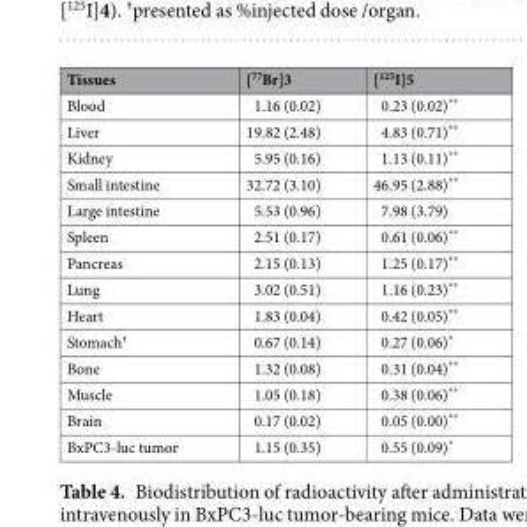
<table><thead><tr><td>Tissues</td><td>[<sup>77</sup>Br]3</td><td>[<sup>125</sup>I]5</td></tr></thead><tbody><tr><td>Blood</td><td>1.16 (0.02)</td><td>0.23 (0.02)**</td></tr><tr><td>Liver</td><td>19.82 (2.48)</td><td>4.83 (0.71)**</td></tr><tr><td>Kidney</td><td>5.95 (0.16)</td><td>1.13 (0.11)**</td></tr><tr><td>Small intestine</td><td>32.72 (3.10)</td><td>46.95 (2.88)**</td></tr><tr><td>Large intestine</td><td>5.53 (0.96)</td><td>7.98 (3.79)</td></tr><tr><td>Spleen</td><td>2.51 (0.17)</td><td>0.61 (0.06)**</td></tr><tr><td>Pancreas</td><td>2.15 (0.13)</td><td>1.25 (0.17)**</td></tr><tr><td>Lung</td><td>3.02 (0.51)</td><td>1.16 (0.23)**</td></tr><tr><td>Heart</td><td>1.83 (0.04)</td><td>0.42 (0.05)**</td></tr><tr><td>Stomach<sup>†</sup></td><td>0.67 (0.14)</td><td>0.27 (0.06)*</td></tr><tr><td>Bone</td><td>1.32 (0.08)</td><td>0.31 (0.04)**</td></tr><tr><td>Muscle</td><td>1.05 (0.18)</td><td>0.38 (0.06)**</td></tr><tr><td>Brain</td><td>0.17 (0.02)</td><td>0.05 (0.00)**</td></tr><tr><td>BxPC3-luc tumor</td><td>1.15 (0.35)</td><td>0.55 (0.09)*</td></tr></tbody></table>